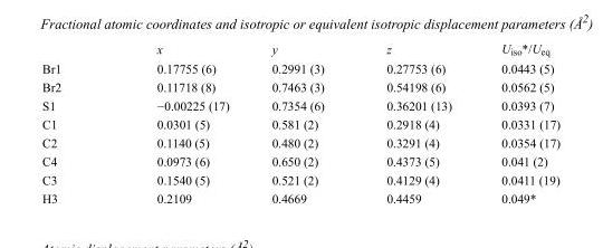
<table><thead><tr><td></td><td>x</td><td>y</td><td>z</td><td>U<sub>iso</sub>*/U<sub>eq</sub></td></tr></thead><tbody><tr><td>Br1</td><td>0.17755 (6)</td><td>0.2991 (3)</td><td>0.27753 (6)</td><td>0.0443 (5)</td></tr><tr><td>Br2</td><td>0.11718 (8)</td><td>0.7463 (3)</td><td>0.54198 (6)</td><td>0.0562 (5)</td></tr><tr><td>S1</td><td>−0.00225 (17)</td><td>0.7354 (6)</td><td>0.36201 (13)</td><td>0.0393 (7)</td></tr><tr><td>C1</td><td>0.0301 (5)</td><td>0.581 (2)</td><td>0.2918 (4)</td><td>0.0331 (17)</td></tr><tr><td>C2</td><td>0.1140 (5)</td><td>0.480 (2)</td><td>0.3291 (4)</td><td>0.0354 (17)</td></tr><tr><td>C4</td><td>0.0973 (6)</td><td>0.650 (2)</td><td>0.4373 (5)</td><td>0.041 (2)</td></tr><tr><td>C3</td><td>0.1540 (5)</td><td>0.521 (2)</td><td>0.4129 (4)</td><td>0.0411 (19)</td></tr><tr><td>H3</td><td>0.2109</td><td>0.4669</td><td>0.4459</td><td>0.049*</td></tr></tbody></table>